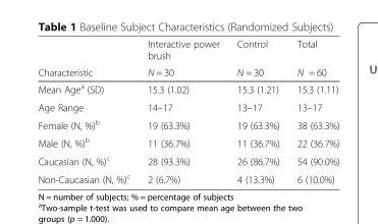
<table><thead><tr><td rowspan="2">Characteristic</td><td rowspan="2">Interactive power brush N = 30</td><td rowspan="2">Control N = 30</td><td rowspan="2">Total N = 60</td></tr><tr></tr></thead><tbody><tr><td>Mean Age<sup>a</sup> (SD)</td><td>15.3 (1.02)</td><td>15.3 (1.21)</td><td>15.3 (1.11)</td></tr><tr><td>Age Range</td><td>14–17</td><td>13–17</td><td>13–17</td></tr><tr><td>Female (N, %)<sup>b</sup></td><td>19 (63.3%)</td><td>19 (63.3%)</td><td>38 (63.3%)</td></tr><tr><td>Male (N, %)<sup>b</sup></td><td>11 (36.7%)</td><td>11 (36.7%)</td><td>22 (36.7%)</td></tr><tr><td>Caucasian (N, %)<sup>c</sup></td><td>28 (93.3%)</td><td>26 (86.7%)</td><td>54 (90.0%)</td></tr><tr><td>Non-Caucasian (N, %)<sup>c</sup></td><td>2 (6.7%)</td><td>4 (13.3%)</td><td>6 (10.0%)</td></tr></tbody></table>